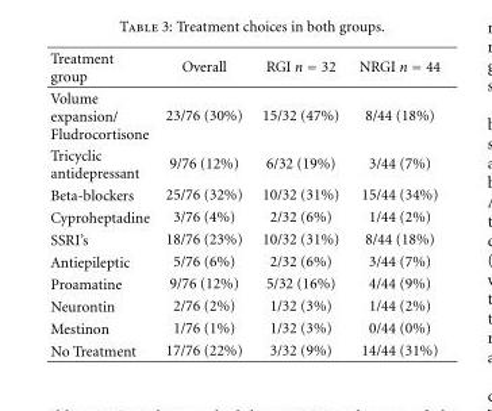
<table><thead><tr><td>Treatment group</td><td>Overall</td><td>RGI n = 32</td><td>NRGI n = 44</td></tr></thead><tbody><tr><td>Volume expansion/ Fludrocortisone</td><td>23/76 (30%)</td><td>15/32 (47%)</td><td>8/44 (18%)</td></tr><tr><td>Tricyclic antidepressant</td><td>9/76 (12%)</td><td>6/32 (19%)</td><td>3/44 (7%)</td></tr><tr><td>Beta-blockers</td><td>25/76 (32%)</td><td>10/32 (31%)</td><td>15/44 (34%)</td></tr><tr><td>Cyproheptadine</td><td>3/76 (4%)</td><td>2/32 (6%)</td><td>1/44 (2%)</td></tr><tr><td>SSRI’s</td><td>18/76 (23%)</td><td>10/32 (31%)</td><td>8/44 (18%)</td></tr><tr><td>Antiepileptic</td><td>5/76 (6%)</td><td>2/32 (6%)</td><td>3/44 (7%)</td></tr><tr><td>Proamatine</td><td>9/76 (12%)</td><td>5/32 (16%)</td><td>4/44 (9%)</td></tr><tr><td>Neurontin</td><td>2/76 (2%)</td><td>1/32 (3%)</td><td>1/44 (2%)</td></tr><tr><td>Mestinon</td><td>1/76 (1%)</td><td>1/32 (3%)</td><td>0/44 (0%)</td></tr><tr><td>No Treatment</td><td>17/76 (22%)</td><td>3/32 (9%)</td><td>14/44 (31%)</td></tr></tbody></table>